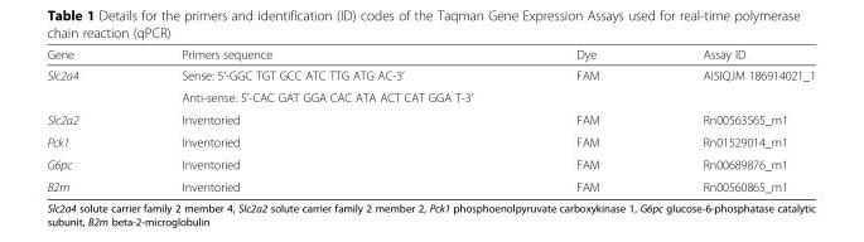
<table><thead><tr><td>Gene</td><td>Primers sequence</td><td>Dye</td><td>Assay ID</td></tr></thead><tbody><tr><td rowspan="2">Slc2a4</td><td>Sense: 5’-GGC TGT GCC ATC TTG ATG AC-3’</td><td rowspan="2">FAM</td><td rowspan="2">AI5IQJM 186914021_1</td></tr><tr><td>Anti-sense: 5’-CAC GAT GGA CAC ATA ACT CAT GGA T-3’</td></tr><tr><td>Slc2a2</td><td>Inventoried</td><td>FAM</td><td>Rn00563565_m1</td></tr><tr><td>Pck1</td><td>Inventoried</td><td>FAM</td><td>Rn01529014_m1</td></tr><tr><td>G6pc</td><td>Inventoried</td><td>FAM</td><td>Rn00689876_m1</td></tr><tr><td>B2m</td><td>Inventoried</td><td>FAM</td><td>Rn00560865_m1</td></tr></tbody></table>